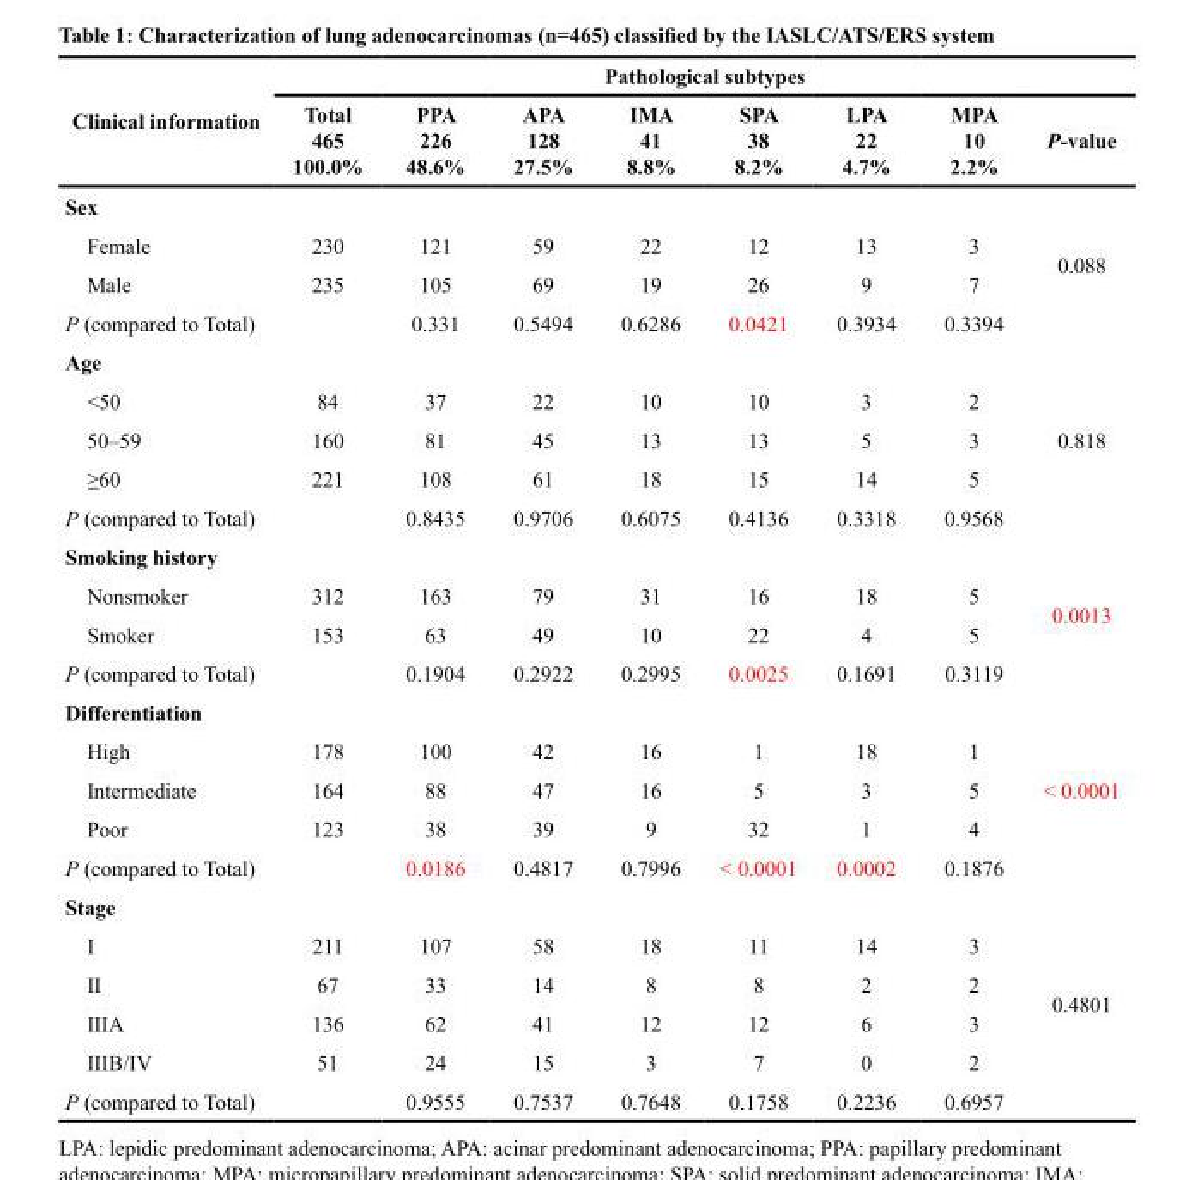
<table><thead><tr><td rowspan="2">Clinical information</td><td colspan="8">Pathological subtypes</td></tr><tr><td>Total 465 100.0%</td><td>PPA 226 48.6%</td><td>APA 128 27.5%</td><td>IMA 41 8.8%</td><td>SPA 38 8.2%</td><td>LPA 22 4.7%</td><td>MPA 10 2.2%</td><td>P-value</td></tr></thead><tbody><tr><td colspan="9">Sex</td></tr><tr><td>Female</td><td>230</td><td>121</td><td>59</td><td>22</td><td>12</td><td>13</td><td>3</td><td rowspan="2">0.088</td></tr><tr><td>Male</td><td>235</td><td>105</td><td>69</td><td>19</td><td>26</td><td>9</td><td>7</td></tr><tr><td colspan="2">P (compared to Total)</td><td>0.331</td><td>0.5494</td><td>0.6286</td><td>0.0421</td><td>0.3934</td><td>0.3394</td><td></td></tr><tr><td colspan="9">Age</td></tr><tr><td>&lt;50</td><td>84</td><td>37</td><td>22</td><td>10</td><td>10</td><td>3</td><td>2</td><td rowspan="3">0.818</td></tr><tr><td>50–59</td><td>160</td><td>81</td><td>45</td><td>13</td><td>13</td><td>5</td><td>3</td></tr><tr><td>≥60</td><td>221</td><td>108</td><td>61</td><td>18</td><td>15</td><td>14</td><td>5</td></tr><tr><td colspan="2">P (compared to Total)</td><td>0.8435</td><td>0.9706</td><td>0.6075</td><td>0.4136</td><td>0.3318</td><td>0.9568</td><td></td></tr><tr><td colspan="8">Smoking history</td><td rowspan="4">0.0013</td></tr><tr><td>Nonsmoker</td><td>312</td><td>163</td><td>79</td><td>31</td><td>16</td><td>18</td><td>5</td></tr><tr><td>Smoker</td><td>153</td><td>63</td><td>49</td><td>10</td><td>22</td><td>4</td><td>5</td></tr><tr><td colspan="2">P (compared to Total)</td><td>0.1904</td><td>0.2922</td><td>0.2995</td><td>0.0025</td><td>0.1691</td><td>0.3119</td></tr><tr><td colspan="9">Differentiation</td></tr><tr><td>High</td><td>178</td><td>100</td><td>42</td><td>16</td><td>1</td><td>18</td><td>1</td><td rowspan="3">&lt; 0.0001</td></tr><tr><td>Intermediate</td><td>164</td><td>88</td><td>47</td><td>16</td><td>5</td><td>3</td><td>5</td></tr><tr><td>Poor</td><td>123</td><td>38</td><td>39</td><td>9</td><td>32</td><td>1</td><td>4</td></tr><tr><td colspan="2">P (compared to Total)</td><td>0.0186</td><td>0.4817</td><td>0.7996</td><td>&lt; 0.0001</td><td>0.0002</td><td>0.1876</td><td></td></tr><tr><td colspan="9">Stage</td></tr><tr><td>I</td><td>211</td><td>107</td><td>58</td><td>18</td><td>11</td><td>14</td><td>3</td><td rowspan="4">0.4801</td></tr><tr><td>II</td><td>67</td><td>33</td><td>14</td><td>8</td><td>8</td><td>2</td><td>2</td></tr><tr><td>IIIA</td><td>136</td><td>62</td><td>41</td><td>12</td><td>12</td><td>6</td><td>3</td></tr><tr><td>IIIB/IV</td><td>51</td><td>24</td><td>15</td><td>3</td><td>7</td><td>0</td><td>2</td></tr><tr><td colspan="2">P (compared to Total)</td><td>0.9555</td><td>0.7537</td><td>0.7648</td><td>0.1758</td><td>0.2236</td><td>0.6957</td><td></td></tr></tbody></table>